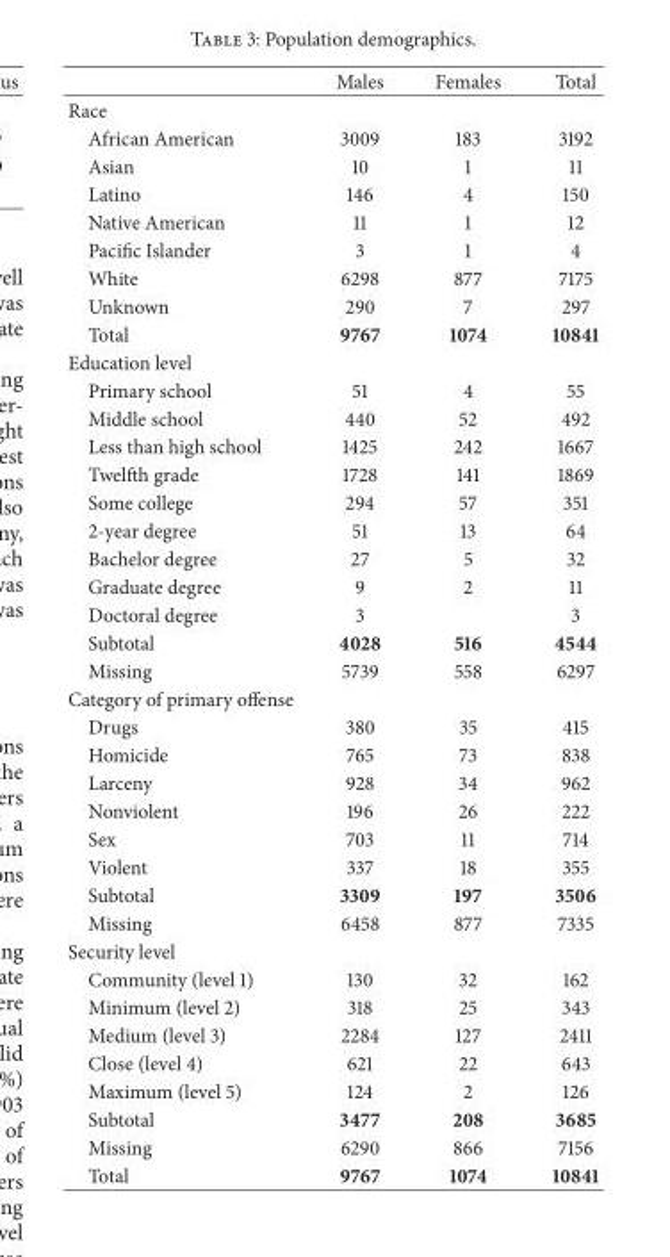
<table><thead><tr><td></td><td>Males</td><td>Females</td><td>Total</td></tr></thead><tbody><tr><td colspan="4">Race</td></tr><tr><td>African American</td><td>3009</td><td>183</td><td>3192</td></tr><tr><td>Asian</td><td>10</td><td>1</td><td>11</td></tr><tr><td>Latino</td><td>146</td><td>4</td><td>150</td></tr><tr><td>Native American</td><td>11</td><td>1</td><td>12</td></tr><tr><td>Pacific Islander</td><td>3</td><td>1</td><td>4</td></tr><tr><td>White</td><td>6298</td><td>877</td><td>7175</td></tr><tr><td>Unknown</td><td>290</td><td>7</td><td>297</td></tr><tr><td>Total</td><td>9767</td><td>1074</td><td>10841</td></tr><tr><td colspan="4">Education level</td></tr><tr><td>Primary school</td><td>51</td><td>4</td><td>55</td></tr><tr><td>Middle school</td><td>440</td><td>52</td><td>492</td></tr><tr><td>Less than high school</td><td>1425</td><td>242</td><td>1667</td></tr><tr><td>Twelfth grade</td><td>1728</td><td>141</td><td>1869</td></tr><tr><td>Some college</td><td>294</td><td>57</td><td>351</td></tr><tr><td>2-year degree</td><td>51</td><td>13</td><td>64</td></tr><tr><td>Bachelor degree</td><td>27</td><td>5</td><td>32</td></tr><tr><td>Graduate degree</td><td>9</td><td>2</td><td>11</td></tr><tr><td>Doctoral degree</td><td>3</td><td></td><td>3</td></tr><tr><td>Subtotal</td><td>4028</td><td>516</td><td>4544</td></tr><tr><td>Missing</td><td>5739</td><td>558</td><td>6297</td></tr><tr><td colspan="4">Category of primary offense</td></tr><tr><td>Drugs</td><td>380</td><td>35</td><td>415</td></tr><tr><td>Homicide</td><td>765</td><td>73</td><td>838</td></tr><tr><td>Larceny</td><td>928</td><td>34</td><td>962</td></tr><tr><td>Nonviolent</td><td>196</td><td>26</td><td>222</td></tr><tr><td>Sex</td><td>703</td><td>11</td><td>714</td></tr><tr><td>Violent</td><td>337</td><td>18</td><td>355</td></tr><tr><td>Subtotal</td><td>3309</td><td>197</td><td>3506</td></tr><tr><td>Missing</td><td>6458</td><td>877</td><td>7335</td></tr><tr><td colspan="4">Security level</td></tr><tr><td>Community (level 1)</td><td>130</td><td>32</td><td>162</td></tr><tr><td>Minimum (level 2)</td><td>318</td><td>25</td><td>343</td></tr><tr><td>Medium (level 3)</td><td>2284</td><td>127</td><td>2411</td></tr><tr><td>Close (level 4)</td><td>621</td><td>22</td><td>643</td></tr><tr><td>Maximum (level 5)</td><td>124</td><td>2</td><td>126</td></tr><tr><td>Subtotal</td><td>3477</td><td>208</td><td>3685</td></tr><tr><td>Missing</td><td>6290</td><td>866</td><td>7156</td></tr><tr><td>Total</td><td>9767</td><td>1074</td><td>10841</td></tr></tbody></table>